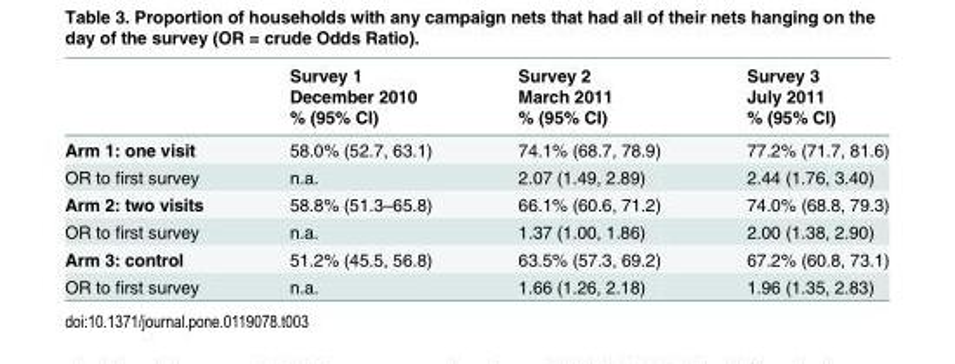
<table><thead><tr><td rowspan="3"></td><td rowspan="3">Survey 1 December 2010 % (95% CI)</td><td rowspan="3">Survey 2 March 2011 % (95% CI)</td><td rowspan="3">Survey 3 July 2011 % (95% CI)</td></tr><tr></tr><tr></tr></thead><tbody><tr><td>Arm 1: one visit</td><td>58.0% (52.7, 63.1)</td><td>74.1% (68.7, 78.9)</td><td>77.2% (71.7, 81.6)</td></tr><tr><td>OR to first survey</td><td>n.a.</td><td>2.07 (1.49, 2.89)</td><td>2.44 (1.76, 3.40)</td></tr><tr><td>Arm 2: two visits</td><td>58.8% (51.3–65.8)</td><td>66.1% (60.6, 71.2)</td><td>74.0% (68.8, 79.3)</td></tr><tr><td>OR to first survey</td><td>n.a.</td><td>1.37 (1.00, 1.86)</td><td>2.00 (1.38, 2.90)</td></tr><tr><td>Arm 3: control</td><td>51.2% (45.5, 56.8)</td><td>63.5% (57.3, 69.2)</td><td>67.2% (60.8, 73.1)</td></tr><tr><td>OR to first survey</td><td>n.a.</td><td>1.66 (1.26, 2.18)</td><td>1.96 (1.35, 2.83)</td></tr></tbody></table>